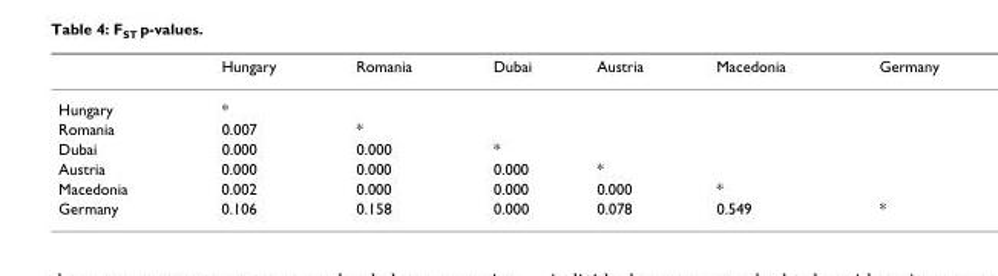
<table><thead><tr><td></td><td>Hungary</td><td>Romania</td><td>Dubai</td><td>Austria</td><td>Macedonia</td><td>Germany</td></tr></thead><tbody><tr><td>Hungary</td><td>*</td><td></td><td></td><td></td><td></td><td></td></tr><tr><td>Romania</td><td>0.007</td><td>*</td><td></td><td></td><td></td><td></td></tr><tr><td>Dubai</td><td>0.000</td><td>0.000</td><td>*</td><td></td><td></td><td></td></tr><tr><td>Austria</td><td>0.000</td><td>0.000</td><td>0.000</td><td>*</td><td></td><td></td></tr><tr><td>Macedonia</td><td>0.002</td><td>0.000</td><td>0.000</td><td>0.000</td><td>*</td><td></td></tr><tr><td>Germany</td><td>0.106</td><td>0.158</td><td>0.000</td><td>0.078</td><td>0.549</td><td>*</td></tr></tbody></table>